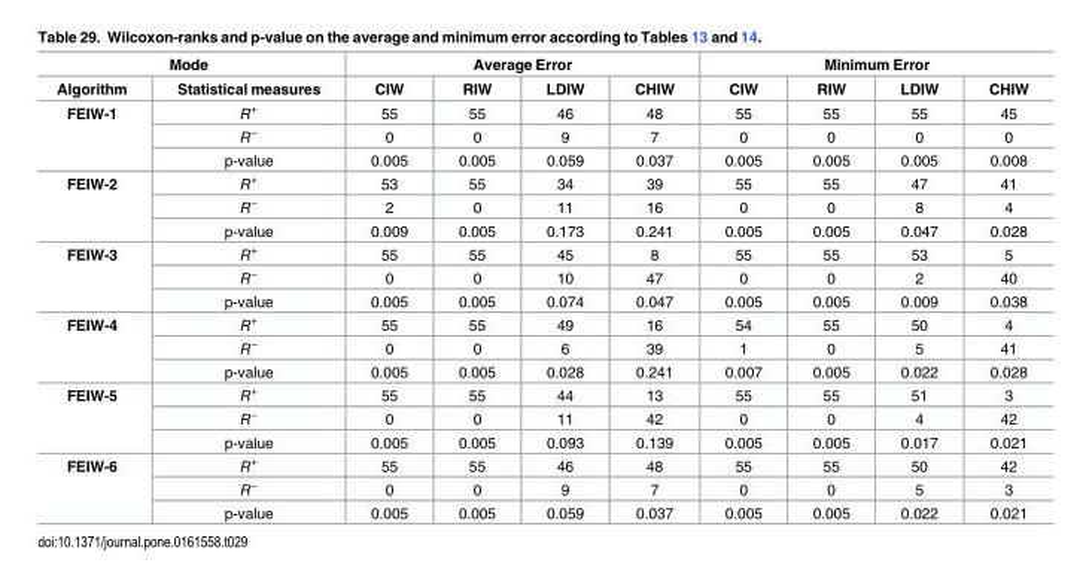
<table><thead><tr><td colspan="2">Mode</td><td colspan="4">Average Error</td><td colspan="4">Minimum Error</td></tr><tr><td>Algorithm</td><td>Statistical measures</td><td>CIW</td><td>RIW</td><td>LDIW</td><td>CHIW</td><td>CIW</td><td>RIW</td><td>LDIW</td><td>CHIW</td></tr></thead><tbody><tr><td rowspan="3">FEIW-1</td><td>R<sup>+</sup></td><td>55</td><td>55</td><td>46</td><td>48</td><td>55</td><td>55</td><td>55</td><td>45</td></tr><tr><td>R<sup>−</sup></td><td>0</td><td>0</td><td>9</td><td>7</td><td>0</td><td>0</td><td>0</td><td>0</td></tr><tr><td>p-value</td><td>0.005</td><td>0.005</td><td>0.059</td><td>0.037</td><td>0.005</td><td>0.005</td><td>0.005</td><td>0.008</td></tr><tr><td rowspan="3">FEIW-2</td><td>R<sup>+</sup></td><td>53</td><td>55</td><td>34</td><td>39</td><td>55</td><td>55</td><td>47</td><td>41</td></tr><tr><td>R<sup>−</sup></td><td>2</td><td>0</td><td>11</td><td>16</td><td>0</td><td>0</td><td>8</td><td>4</td></tr><tr><td>p-value</td><td>0.009</td><td>0.005</td><td>0.173</td><td>0.241</td><td>0.005</td><td>0.005</td><td>0.047</td><td>0.028</td></tr><tr><td rowspan="3">FEIW-3</td><td>R<sup>+</sup></td><td>55</td><td>55</td><td>45</td><td>8</td><td>55</td><td>55</td><td>53</td><td>5</td></tr><tr><td>R<sup>−</sup></td><td>0</td><td>0</td><td>10</td><td>47</td><td>0</td><td>0</td><td>2</td><td>40</td></tr><tr><td>p-value</td><td>0.005</td><td>0.005</td><td>0.074</td><td>0.047</td><td>0.005</td><td>0.005</td><td>0.009</td><td>0.038</td></tr><tr><td rowspan="3">FEIW-4</td><td>R<sup>+</sup></td><td>55</td><td>55</td><td>49</td><td>16</td><td>54</td><td>55</td><td>50</td><td>4</td></tr><tr><td>R<sup>−</sup></td><td>0</td><td>0</td><td>6</td><td>39</td><td>1</td><td>0</td><td>5</td><td>41</td></tr><tr><td>p-value</td><td>0.005</td><td>0.005</td><td>0.028</td><td>0.241</td><td>0.007</td><td>0.005</td><td>0.022</td><td>0.028</td></tr><tr><td rowspan="3">FEIW-5</td><td>R<sup>+</sup></td><td>55</td><td>55</td><td>44</td><td>13</td><td>55</td><td>55</td><td>51</td><td>3</td></tr><tr><td>R<sup>−</sup></td><td>0</td><td>0</td><td>11</td><td>42</td><td>0</td><td>0</td><td>4</td><td>42</td></tr><tr><td>p-value</td><td>0.005</td><td>0.005</td><td>0.093</td><td>0.139</td><td>0.005</td><td>0.005</td><td>0.017</td><td>0.021</td></tr><tr><td rowspan="3">FEIW-6</td><td>R<sup>+</sup></td><td>55</td><td>55</td><td>46</td><td>48</td><td>55</td><td>55</td><td>50</td><td>42</td></tr><tr><td>R<sup>−</sup></td><td>0</td><td>0</td><td>9</td><td>7</td><td>0</td><td>0</td><td>5</td><td>3</td></tr><tr><td>p-value</td><td>0.005</td><td>0.005</td><td>0.059</td><td>0.037</td><td>0.005</td><td>0.005</td><td>0.022</td><td>0.021</td></tr></tbody></table>